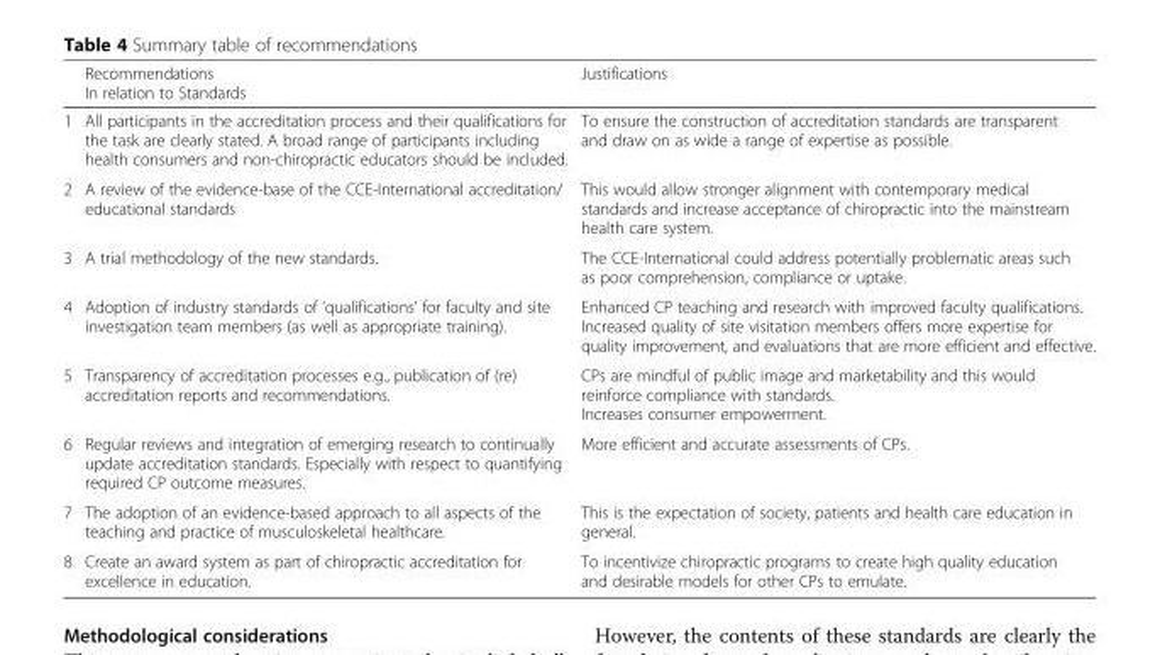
<table><thead><tr><td></td><td>Recommendations In relation to Standards</td><td>Justifications</td></tr></thead><tbody><tr><td>1</td><td>All participants in the accreditation process and their qualifications for the task are clearly stated. A broad range of participants including health consumers and non-chiropractic educators should be included.</td><td>To ensure the construction of accreditation standards are transparent and draw on as wide a range of expertise as possible.</td></tr><tr><td>2</td><td>A review of the evidence-base of the CCE-International accreditation/ educational standards</td><td>This would allow stronger alignment with contemporary medical standards and increase acceptance of chiropractic into the mainstream health care system.</td></tr><tr><td>3</td><td>A trial methodology of the new standards.</td><td>The CCE-International could address potentially problematic areas such as poor comprehension, compliance or uptake.</td></tr><tr><td>4</td><td>Adoption of industry standards of ‘qualifications’ for faculty and site investigation team members (as well as appropriate training).</td><td>Enhanced CP teaching and research with improved faculty qualifications. Increased quality of site visitation members offers more expertise for quality improvement, and evaluations that are more efficient and effective.</td></tr><tr><td>5</td><td>Transparency of accreditation processes e.g., publication of (re) accreditation reports and recommendations.</td><td>CPs are mindful of public image and marketability and this would reinforce compliance with standards. Increases consumer empowerment.</td></tr><tr><td>6</td><td>Regular reviews and integration of emerging research to continually update accreditation standards. Especially with respect to quantifying required CP outcome measures.</td><td>More efficient and accurate assessments of CPs.</td></tr><tr><td>7</td><td>The adoption of an evidence-based approach to all aspects of the teaching and practice of musculoskeletal healthcare.</td><td>This is the expectation of society, patients and health care education in general.</td></tr><tr><td>8</td><td>Create an award system as part of chiropractic accreditation for excellence in education.</td><td>To incentivize chiropractic programs to create high quality education and desirable models for other CPs to emulate.</td></tr></tbody></table>